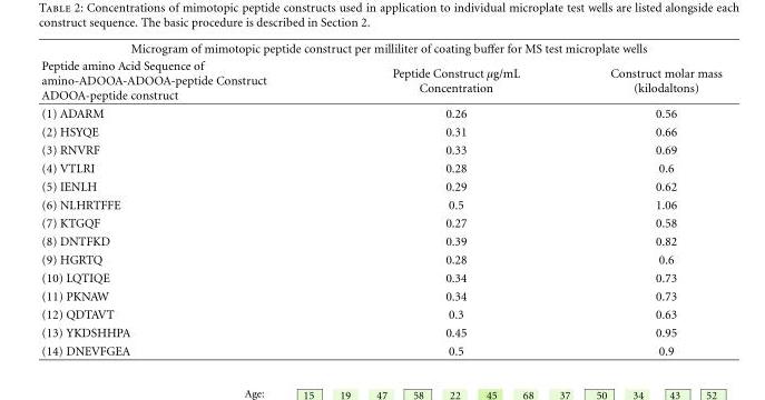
<table><thead><tr><td colspan="3">Microgram of mimotopic peptide construct per milliliter of coating buffer for MS test microplate wells</td></tr><tr><td>Peptide amino Acid Sequence of amino-ADOOA-ADOOA-peptide Construct ADOOA-peptide construct</td><td>Peptide Construct μg/mL Concentration</td><td>Construct molar mass (kilodaltons)</td></tr></thead><tbody><tr><td>(1) ADARM</td><td>0.26</td><td>0.56</td></tr><tr><td>(2) HSYQE</td><td>0.31</td><td>0.66</td></tr><tr><td>(3) RNVRF</td><td>0.33</td><td>0.69</td></tr><tr><td>(4) VTLRI</td><td>0.28</td><td>0.6</td></tr><tr><td>(5) IENLH</td><td>0.29</td><td>0.62</td></tr><tr><td>(6) NLHRTFFE</td><td>0.5</td><td>1.06</td></tr><tr><td>(7) KTGQF</td><td>0.27</td><td>0.58</td></tr><tr><td>(8) DNTFKD</td><td>0.39</td><td>0.82</td></tr><tr><td>(9) HGRTQ</td><td>0.28</td><td>0.6</td></tr><tr><td>(10) LQTIQE</td><td>0.34</td><td>0.73</td></tr><tr><td>(11) PKNAW</td><td>0.34</td><td>0.73</td></tr><tr><td>(12) QDTAVT</td><td>0.3</td><td>0.63</td></tr><tr><td>(13) YKDSHHPA</td><td>0.45</td><td>0.95</td></tr><tr><td>(14) DNEVFGEA</td><td>0.5</td><td>0.9</td></tr></tbody></table>